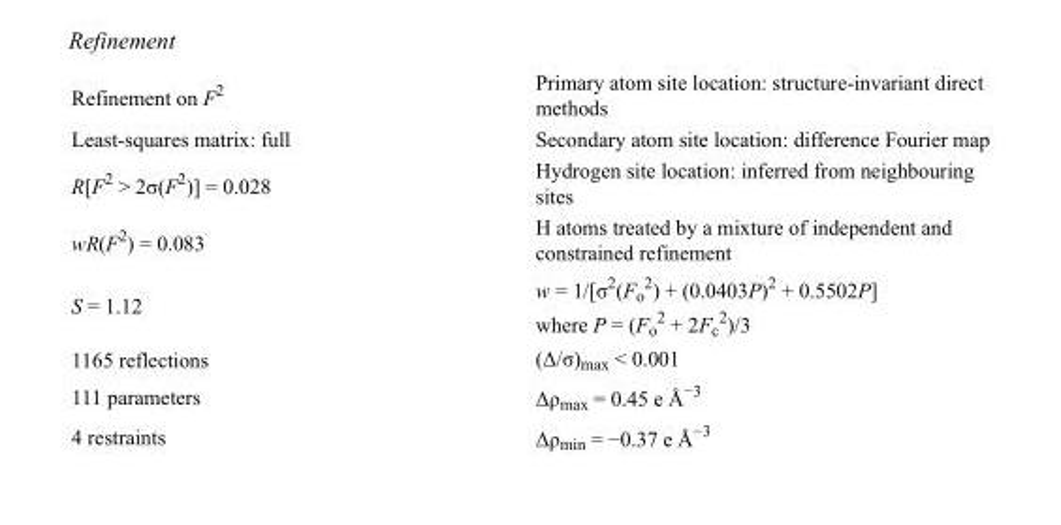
<table><tbody><tr><td>Refinement on F<sup>2</sup></td><td>Primary atom site location: structure-invariant direct methods</td></tr><tr><td>Least-squares matrix: full</td><td>Secondary atom site location: difference Fourier map</td></tr><tr><td>R[F<sup>2</sup> &gt; 2σ(F<sup>2</sup>)] = 0.028</td><td>Hydrogen site location: inferred from neighbouring sites</td></tr><tr><td>wR(F<sup>2</sup>) = 0.083</td><td>H atoms treated by a mixture of independent and constrained refinement</td></tr><tr><td>S = 1.12</td><td>w = 1/[σ<sup>2</sup>(F<sub>o</sub> <sup>2</sup>) + (0.0403P)<sup>2</sup> + 0.5502P] where P = (F<sub>o</sub> <sup>2</sup> + 2F<sub>c</sub> <sup>2</sup>)/3</td></tr><tr><td>1165 reflections</td><td>(Δ/σ)<sub>max</sub> &lt; 0.001</td></tr><tr><td>111 parameters</td><td>Δρ<sub>max</sub> = 0.45 e Å<sup>−3</sup></td></tr><tr><td>4 restraints</td><td>Δρ<sub>min</sub> = −0.37 e Å<sup>−3</sup></td></tr></tbody></table>